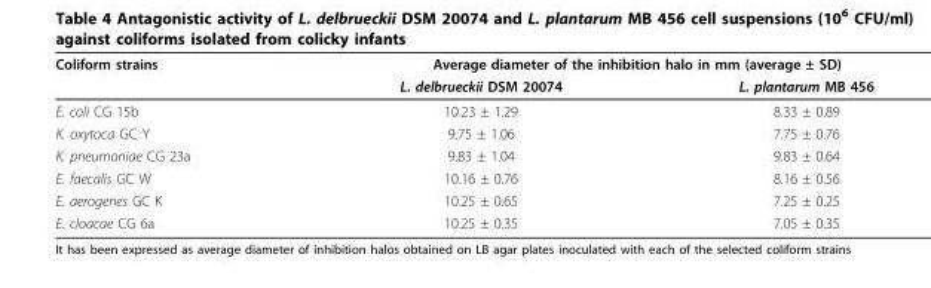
<table><thead><tr><td rowspan="2">Coliform strains</td><td colspan="2">Average diameter of the inhibition halo in mm (average ± SD)</td></tr><tr><td>L. delbrueckii DSM 20074</td><td>L. plantarum MB 456</td></tr></thead><tbody><tr><td>E. coli CG 15b</td><td>10.23 ± 1.29</td><td>8.33 ± 0.89</td></tr><tr><td>K. oxytoca GC Y</td><td>9.75 ± 1.06</td><td>7.75 ± 0.76</td></tr><tr><td>K. pneumoniae CG 23a</td><td>9.83 ± 1.04</td><td>9.83 ± 0.64</td></tr><tr><td>E. faecalis GC W</td><td>10.16 ± 0.76</td><td>8.16 ± 0.56</td></tr><tr><td>E. aerogenes GC K</td><td>10.25 ± 0.65</td><td>7.25 ± 0.25</td></tr><tr><td>E. cloacae CG 6a</td><td>10.25 ± 0.35</td><td>7.05 ± 0.35</td></tr></tbody></table>